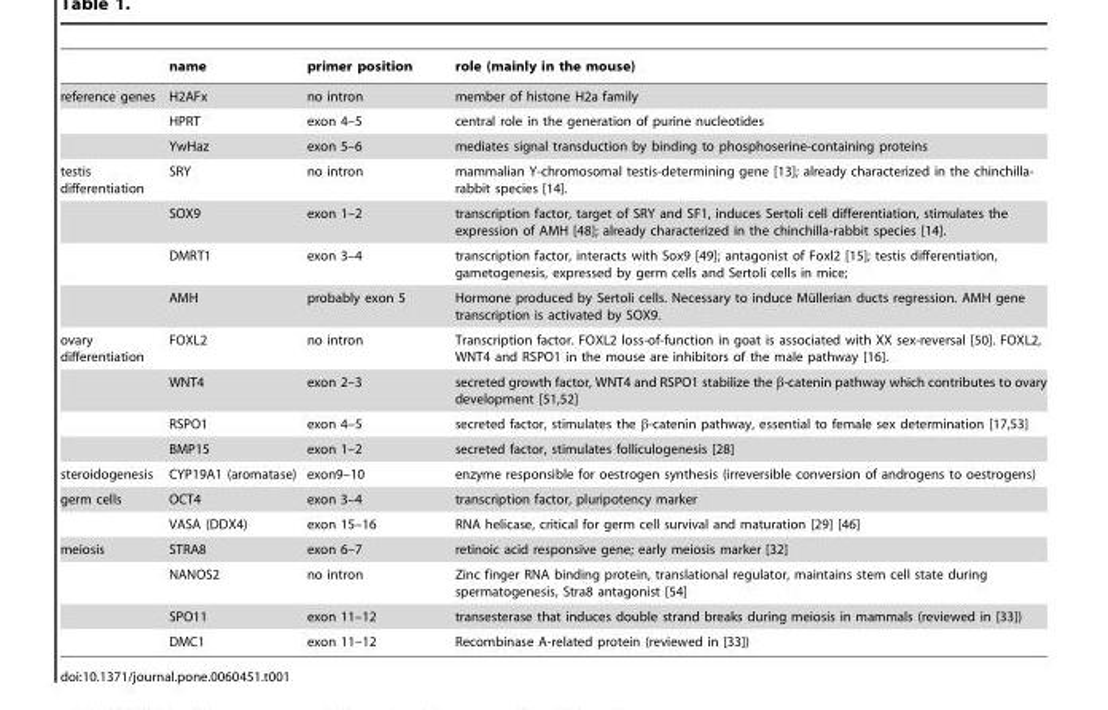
<table><thead><tr><td></td><td>name</td><td>primer position</td><td>role (mainly in the mouse)</td></tr></thead><tbody><tr><td rowspan="3">reference genes</td><td>H2AFx</td><td>no intron</td><td>member of histone H2a family</td></tr><tr><td>HPRT</td><td>exon 4–5</td><td>central role in the generation of purine nucleotides</td></tr><tr><td>YwHaz</td><td>exon 5–6</td><td>mediates signal transduction by binding to phosphoserine-containing proteins</td></tr><tr><td rowspan="4">testis differentiation</td><td>SRY</td><td>no intron</td><td>mammalian Y-chromosomal testis-determining gene [13]; already characterized in the chinchilla- rabbit species [14].</td></tr><tr><td>SOX9</td><td>exon 1–2</td><td>transcription factor, target of SRY and SF1, induces Sertoli cell differentiation, stimulates the expression of AMH [48]; already characterized in the chinchilla-rabbit species [14].</td></tr><tr><td>DMRT1</td><td>exon 3–4</td><td>transcription factor, interacts with Sox9 [49]; antagonist of Foxl2 [15]; testis differentiation, gametogenesis, expressed by germ cells and Sertoli cells in mice;</td></tr><tr><td>AMH</td><td>probably exon 5</td><td>Hormone produced by Sertoli cells. Necessary to induce Mu¨llerian ducts regression. AMH gene transcription is activated by SOX9.</td></tr><tr><td rowspan="4">ovary differentiation</td><td>FOXL2</td><td>no intron</td><td>Transcription factor. FOXL2 loss-of-function in goat is associated with XX sex-reversal [50]. FOXL2, WNT4 and RSPO1 in the mouse are inhibitors of the male pathway [16].</td></tr><tr><td>WNT4</td><td>exon 2–3</td><td>secreted growth factor, WNT4 and RSPO1 stabilize the b-catenin pathway which contributes to ovary development [51,52]</td></tr><tr><td>RSPO1</td><td>exon 4–5</td><td>secreted factor, stimulates the b-catenin pathway, essential to female sex determination [17,53]</td></tr><tr><td>BMP15</td><td>exon 1–2</td><td>secreted factor, stimulates folliculogenesis [28]</td></tr><tr><td>steroidogenesis</td><td>CYP19A1 (aromatase)</td><td>exon9–10</td><td>enzyme responsible for oestrogen synthesis (irreversible conversion of androgens to oestrogens)</td></tr><tr><td rowspan="2">germ cells</td><td>OCT4</td><td>exon 3–4</td><td>transcription factor, pluripotency marker</td></tr><tr><td>VASA (DDX4)</td><td>exon 15–16</td><td>RNA helicase, critical for germ cell survival and maturation [29] [46]</td></tr><tr><td rowspan="4">meiosis</td><td>STRA8</td><td>exon 6–7</td><td>retinoic acid responsive gene; early meiosis marker [32]</td></tr><tr><td>NANOS2</td><td>no intron</td><td>Zinc finger RNA binding protein, translational regulator, maintains stem cell state during spermatogenesis, Stra8 antagonist [54]</td></tr><tr><td>SPO11</td><td>exon 11–12</td><td>transesterase that induces double strand breaks during meiosis in mammals (reviewed in [33])</td></tr><tr><td>DMC1</td><td>exon 11–12</td><td>Recombinase A-related protein (reviewed in [33])</td></tr></tbody></table>